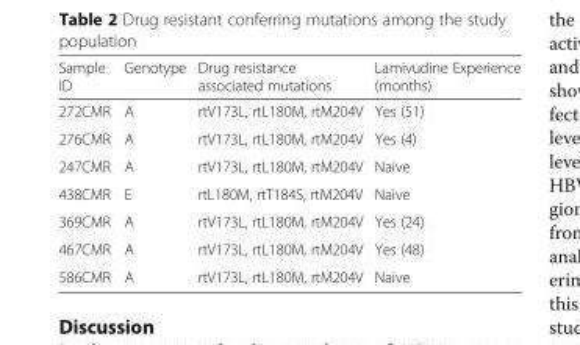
<table><thead><tr><td>Sample ID</td><td>Genotype</td><td>Drug resistance associated mutations</td><td>Lamivudine Experience (months)</td></tr></thead><tbody><tr><td>272CMR</td><td>A</td><td>rtV173L, rtL180M, rtM204V</td><td>Yes (51)</td></tr><tr><td>276CMR</td><td>A</td><td>rtV173L, rtL180M, rtM204V</td><td>Yes (4)</td></tr><tr><td>247CMR</td><td>A</td><td>rtV173L, rtL180M, rtM204V</td><td>Naive</td></tr><tr><td>438CMR</td><td>E</td><td>rtL180M, rtT184S, rtM204V</td><td>Naive</td></tr><tr><td>369CMR</td><td>A</td><td>rtV173L, rtL180M, rtM204V</td><td>Yes (24)</td></tr><tr><td>467CMR</td><td>A</td><td>rtV173L, rtL180M, rtM204V</td><td>Yes (48)</td></tr><tr><td>586CMR</td><td>A</td><td>rtV173L, rtL180M, rtM204V</td><td>Naive</td></tr></tbody></table>